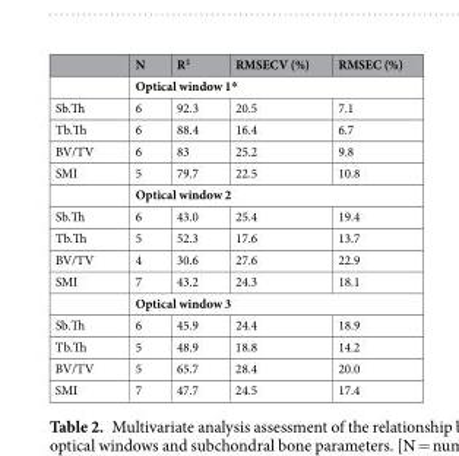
<table><thead><tr><td></td><td>N</td><td>R<sup>2</sup></td><td>RMSECV (%)</td><td>RMSEC (%)</td></tr></thead><tbody><tr><td></td><td colspan="4">Optical window 1*</td></tr><tr><td>Sb.Th</td><td>6</td><td>92.3</td><td>20.5</td><td>7.1</td></tr><tr><td>Tb.Th</td><td>6</td><td>88.4</td><td>16.4</td><td>6.7</td></tr><tr><td>BV/TV</td><td>6</td><td>83</td><td>25.2</td><td>9.8</td></tr><tr><td rowspan="2">SMI</td><td>5</td><td>79.7</td><td>22.5</td><td>10.8</td></tr><tr><td colspan="4">Optical window 2</td></tr><tr><td>Sb.Th</td><td>6</td><td>43.0</td><td>25.4</td><td>19.4</td></tr><tr><td>Tb.Th</td><td>5</td><td>52.3</td><td>17.6</td><td>13.7</td></tr><tr><td>BV/TV</td><td>4</td><td>30.6</td><td>27.6</td><td>22.9</td></tr><tr><td rowspan="2">SMI</td><td>7</td><td>43.2</td><td>24.3</td><td>18.1</td></tr><tr><td colspan="4">Optical window 3</td></tr><tr><td>Sb.Th</td><td>6</td><td>45.9</td><td>24.4</td><td>18.9</td></tr><tr><td>Tb.Th</td><td>5</td><td>48.9</td><td>18.8</td><td>14.2</td></tr><tr><td>BV/TV</td><td>5</td><td>65.7</td><td>28.4</td><td>20.0</td></tr><tr><td>SMI</td><td>7</td><td>47.7</td><td>24.5</td><td>17.4</td></tr></tbody></table>